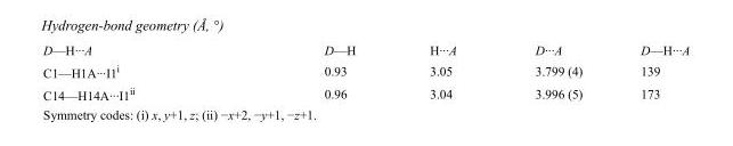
<table><tbody><tr><td>D—H···A</td><td>D—H</td><td>H···A</td><td>D···A</td><td>D—H···A</td></tr><tr><td>C1—H1A···I1<sup>i</sup></td><td>0.93</td><td>3.05</td><td>3.799 (4)</td><td>139</td></tr><tr><td>C14—H14A···I1<sup>ii</sup></td><td>0.96</td><td>3.04</td><td>3.996 (5)</td><td>173</td></tr></tbody></table>